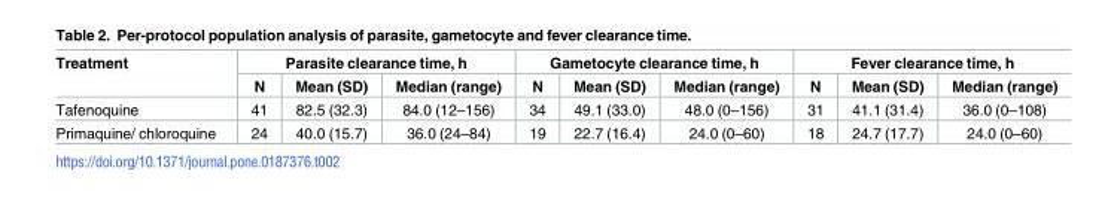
<table><thead><tr><td rowspan="2">Treatment</td><td colspan="3">Parasite clearance time, h</td><td colspan="3">Gametocyte clearance time, h</td><td colspan="3">Fever clearance time, h</td></tr><tr><td>N</td><td>Mean (SD)</td><td>Median (range)</td><td>N</td><td>Mean (SD)</td><td>Median (range)</td><td>N</td><td>Mean (SD)</td><td>Median (range)</td></tr></thead><tbody><tr><td>Tafenoquine</td><td>41</td><td>82.5 (32.3)</td><td>84.0 (12–156)</td><td>34</td><td>49.1 (33.0)</td><td>48.0 (0–156)</td><td>31</td><td>41.1 (31.4)</td><td>36.0 (0–108)</td></tr><tr><td>Primaquine/ chloroquine</td><td>24</td><td>40.0 (15.7)</td><td>36.0 (24–84)</td><td>19</td><td>22.7 (16.4)</td><td>24.0 (0–60)</td><td>18</td><td>24.7 (17.7)</td><td>24.0 (0–60)</td></tr></tbody></table>